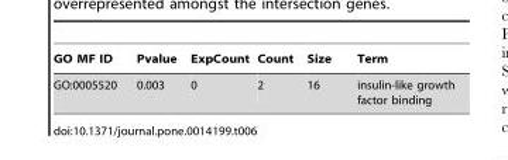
<table><thead><tr><td>GO MF ID</td><td>Pvalue</td><td>ExpCount</td><td>Count</td><td>Size</td><td>Term</td></tr></thead><tbody><tr><td>GO:0005520</td><td>0.003</td><td>0</td><td>2</td><td>16</td><td>insulin-like growth factor binding</td></tr></tbody></table>